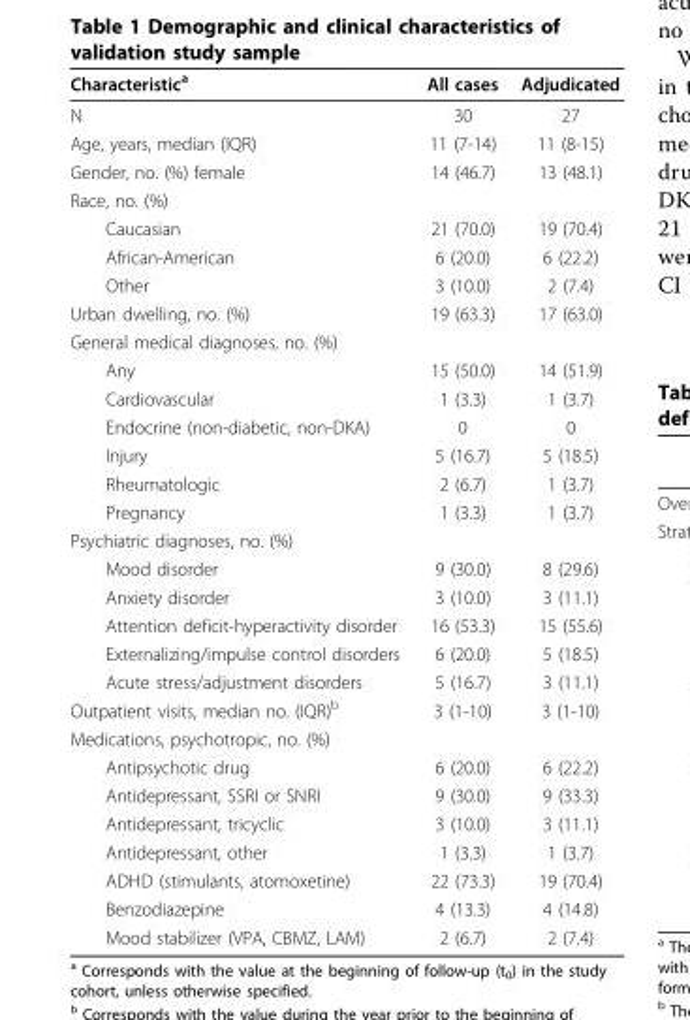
<table><thead><tr><td>Characteristic<sup>a</sup></td><td>All cases</td><td>Adjudicated</td></tr></thead><tbody><tr><td>N</td><td>30</td><td>27</td></tr><tr><td>Age, years, median (IQR)</td><td>11 (7-14)</td><td>11 (8-15)</td></tr><tr><td>Gender, no. (%) female</td><td>14 (46.7)</td><td>13 (48.1)</td></tr><tr><td colspan="3">Race, no. (%)</td></tr><tr><td>Caucasian</td><td>21 (70.0)</td><td>19 (70.4)</td></tr><tr><td>African-American</td><td>6 (20.0)</td><td>6 (22.2)</td></tr><tr><td>Other</td><td>3 (10.0)</td><td>2 (7.4)</td></tr><tr><td>Urban dwelling, no. (%)</td><td>19 (63.3)</td><td>17 (63.0)</td></tr><tr><td colspan="3">General medical diagnoses, no. (%)</td></tr><tr><td>Any</td><td>15 (50.0)</td><td>14 (51.9)</td></tr><tr><td>Cardiovascular</td><td>1 (3.3)</td><td>1 (3.7)</td></tr><tr><td>Endocrine (non-diabetic, non-DKA)</td><td>0</td><td>0</td></tr><tr><td>Injury</td><td>5 (16.7)</td><td>5 (18.5)</td></tr><tr><td>Rheumatologic</td><td>2 (6.7)</td><td>1 (3.7)</td></tr><tr><td>Pregnancy</td><td>1 (3.3)</td><td>1 (3.7)</td></tr><tr><td colspan="3">Psychiatric diagnoses, no. (%)</td></tr><tr><td>Mood disorder</td><td>9 (30.0)</td><td>8 (29.6)</td></tr><tr><td>Anxiety disorder</td><td>3 (10.0)</td><td>3 (11.1)</td></tr><tr><td>Attention deficit-hyperactivity disorder</td><td>16 (53.3)</td><td>15 (55.6)</td></tr><tr><td>Externalizing/impulse control disorders</td><td>6 (20.0)</td><td>5 (18.5)</td></tr><tr><td>Acute stress/adjustment disorders</td><td>5 (16.7)</td><td>3 (11.1)</td></tr><tr><td>Outpatient visits, median no. (IQR)<sup>b</sup></td><td>3 (1-10)</td><td>3 (1-10)</td></tr><tr><td colspan="3">Medications, psychotropic, no. (%)</td></tr><tr><td>Antipsychotic drug</td><td>6 (20.0)</td><td>6 (22.2)</td></tr><tr><td>Antidepressant, SSRI or SNRI</td><td>9 (30.0)</td><td>9 (33.3)</td></tr><tr><td>Antidepressant, tricyclic</td><td>3 (10.0)</td><td>3 (11.1)</td></tr><tr><td>Antidepressant, other</td><td>1 (3.3)</td><td>1 (3.7)</td></tr><tr><td>ADHD (stimulants, atomoxetine)</td><td>22 (73.3)</td><td>19 (70.4)</td></tr><tr><td>Benzodiazepine</td><td>4 (13.3)</td><td>4 (14.8)</td></tr><tr><td>Mood stabilizer (VPA, CBMZ, LAM)</td><td>2 (6.7)</td><td>2 (7.4)</td></tr></tbody></table>